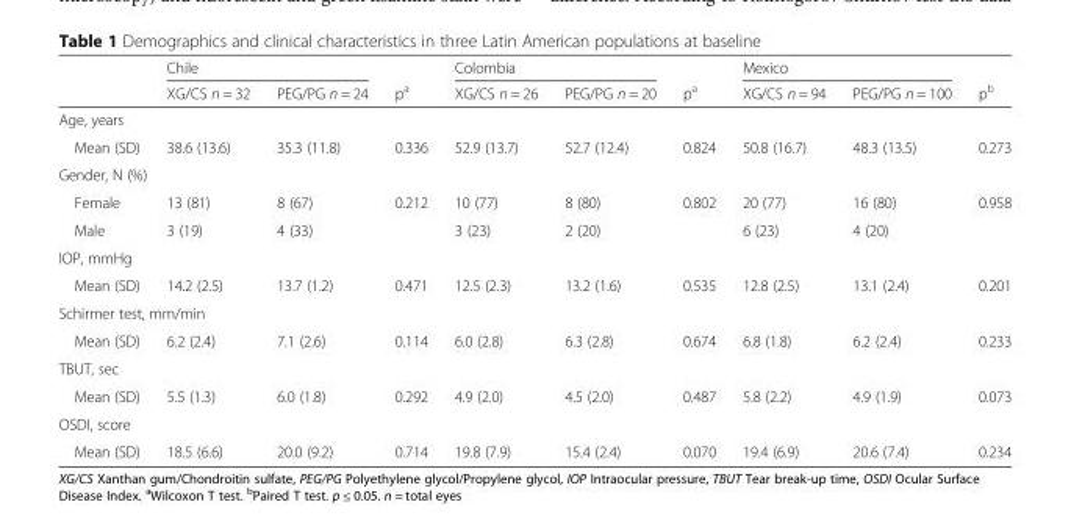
<table><thead><tr><td rowspan="2"></td><td colspan="2">Chile</td><td rowspan="2">p<sup>a</sup></td><td colspan="2">Colombia</td><td rowspan="2">p<sup>a</sup></td><td colspan="2">Mexico</td><td rowspan="2">p<sup>b</sup></td></tr><tr><td>XG/CS n = 32</td><td>PEG/PG n = 24</td><td>XG/CS n = 26</td><td>PEG/PG n = 20</td><td>XG/CS n = 94</td><td>PEG/PG n = 100</td></tr></thead><tbody><tr><td colspan="10">Age, years</td></tr><tr><td>Mean (SD)</td><td>38.6 (13.6)</td><td>35.3 (11.8)</td><td>0.336</td><td>52.9 (13.7)</td><td>52.7 (12.4)</td><td>0.824</td><td>50.8 (16.7)</td><td>48.3 (13.5)</td><td>0.273</td></tr><tr><td colspan="10">Gender, N (%)</td></tr><tr><td>Female</td><td>13 (81)</td><td>8 (67)</td><td rowspan="2">0.212</td><td>10 (77)</td><td>8 (80)</td><td rowspan="2">0.802</td><td>20 (77)</td><td>16 (80)</td><td rowspan="2">0.958</td></tr><tr><td>Male</td><td>3 (19)</td><td>4 (33)</td><td>3 (23)</td><td>2 (20)</td><td>6 (23)</td><td>4 (20)</td></tr><tr><td colspan="10">IOP, mmHg</td></tr><tr><td>Mean (SD)</td><td>14.2 (2.5)</td><td>13.7 (1.2)</td><td>0.471</td><td>12.5 (2.3)</td><td>13.2 (1.6)</td><td>0.535</td><td>12.8 (2.5)</td><td>13.1 (2.4)</td><td>0.201</td></tr><tr><td colspan="10">Schirmer test, mm/min</td></tr><tr><td>Mean (SD)</td><td>6.2 (2.4)</td><td>7.1 (2.6)</td><td>0.114</td><td>6.0 (2.8)</td><td>6.3 (2.8)</td><td>0.674</td><td>6.8 (1.8)</td><td>6.2 (2.4)</td><td>0.233</td></tr><tr><td colspan="10">TBUT, sec</td></tr><tr><td>Mean (SD)</td><td>5.5 (1.3)</td><td>6.0 (1.8)</td><td>0.292</td><td>4.9 (2.0)</td><td>4.5 (2.0)</td><td>0.487</td><td>5.8 (2.2)</td><td>4.9 (1.9)</td><td>0.073</td></tr><tr><td colspan="10">OSDI, score</td></tr><tr><td>Mean (SD)</td><td>18.5 (6.6)</td><td>20.0 (9.2)</td><td>0.714</td><td>19.8 (7.9)</td><td>15.4 (2.4)</td><td>0.070</td><td>19.4 (6.9)</td><td>20.6 (7.4)</td><td>0.234</td></tr></tbody></table>